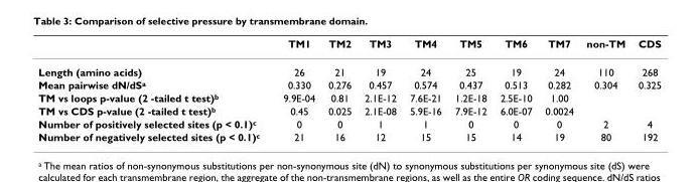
<table><thead><tr><td></td><td>TM1</td><td>TM2</td><td>TM3</td><td>TM4</td><td>TM5</td><td>TM6</td><td>TM7</td><td>non-TM</td><td>CDS</td></tr></thead><tbody><tr><td>Length (amino acids)</td><td>26</td><td>21</td><td>19</td><td>24</td><td>25</td><td>19</td><td>24</td><td>110</td><td>268</td></tr><tr><td>Mean pairwise dN/dS<sup>a</sup></td><td>0.330</td><td>0.276</td><td>0.457</td><td>0.574</td><td>0.437</td><td>0.513</td><td>0.282</td><td>0.304</td><td>0.325</td></tr><tr><td>TM vs loops p-value (2 -tailed t test)<sup>b</sup></td><td>9.9E-04</td><td>0.81</td><td>2.1E-12</td><td>7.6E-21</td><td>1.2E-18</td><td>2.5E-10</td><td>1.00</td><td></td><td></td></tr><tr><td>TM vs CDS p-value (2 -tailed t test)<sup>b</sup></td><td>0.45</td><td>0.025</td><td>2.1E-08</td><td>5.9E-16</td><td>7.9E-12</td><td>6.0E-07</td><td>0.0024</td><td></td><td></td></tr><tr><td>Number of positively selected sites (p &lt; 0.1)<sup>c</sup></td><td>0</td><td>0</td><td>1</td><td>1</td><td>0</td><td>0</td><td>0</td><td>2</td><td>4</td></tr><tr><td>Number of negatively selected sites (p &lt; 0.1)<sup>c</sup></td><td>21</td><td>16</td><td>12</td><td>15</td><td>15</td><td>14</td><td>19</td><td>80</td><td>192</td></tr></tbody></table>